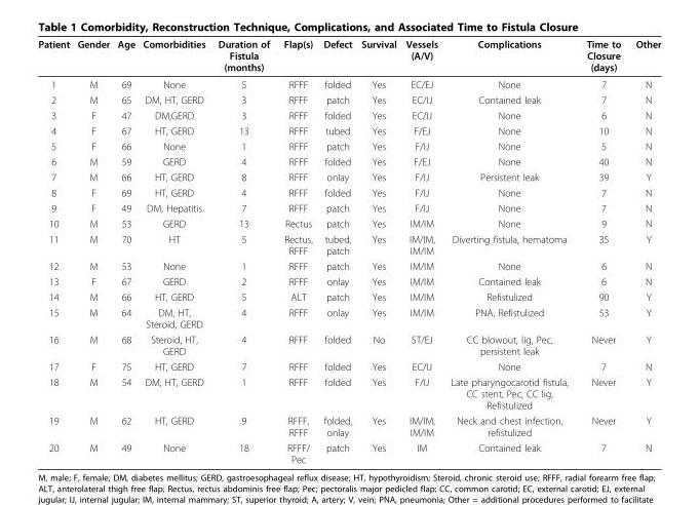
<table><thead><tr><td>Patient</td><td>Gender</td><td>Age</td><td>Comorbidities</td><td>Duration of Fistula (months)</td><td>Flap(s)</td><td>Defect</td><td>Survival</td><td>Vessels (A/V)</td><td>Complications</td><td>Time to Closure (days)</td><td>Other</td></tr></thead><tbody><tr><td>1</td><td>M</td><td>69</td><td>None</td><td>5</td><td>RFFF</td><td>folded</td><td>Yes</td><td>EC/EJ</td><td>None</td><td>7</td><td>N</td></tr><tr><td>2</td><td>M</td><td>65</td><td>DM, HT, GERD</td><td>3</td><td>RFFF</td><td>patch</td><td>Yes</td><td>EC/IJ</td><td>Contained leak</td><td>7</td><td>N</td></tr><tr><td>3</td><td>F</td><td>47</td><td>DM,GERD</td><td>3</td><td>RFFF</td><td>folded</td><td>Yes</td><td>EC/IJ</td><td>None</td><td>6</td><td>N</td></tr><tr><td>4</td><td>F</td><td>67</td><td>HT, GERD</td><td>13</td><td>RFFF</td><td>tubed</td><td>Yes</td><td>F/EJ</td><td>None</td><td>10</td><td>N</td></tr><tr><td>5</td><td>F</td><td>66</td><td>None</td><td>1</td><td>RFFF</td><td>patch</td><td>Yes</td><td>F/IJ</td><td>None</td><td>5</td><td>N</td></tr><tr><td>6</td><td>M</td><td>59</td><td>GERD</td><td>4</td><td>RFFF</td><td>folded</td><td>Yes</td><td>F/EJ</td><td>None</td><td>40</td><td>N</td></tr><tr><td>7</td><td>M</td><td>66</td><td>HT, GERD</td><td>8</td><td>RFFF</td><td>onlay</td><td>Yes</td><td>F/IJ</td><td>Persistent leak</td><td>39</td><td>Y</td></tr><tr><td>8</td><td>F</td><td>69</td><td>HT, GERD</td><td>4</td><td>RFFF</td><td>folded</td><td>Yes</td><td>F/IJ</td><td>None</td><td>7</td><td>N</td></tr><tr><td>9</td><td>F</td><td>49</td><td>DM, Hepatitis</td><td>7</td><td>RFFF</td><td>patch</td><td>Yes</td><td>F/IJ</td><td>None</td><td>7</td><td>N</td></tr><tr><td>10</td><td>M</td><td>53</td><td>GERD</td><td>13</td><td>Rectus</td><td>patch</td><td>Yes</td><td>IM/IM</td><td>None</td><td>9</td><td>N</td></tr><tr><td>11</td><td>M</td><td>70</td><td>HT</td><td>5</td><td>Rectus, RFFF</td><td>tubed, patch</td><td>Yes</td><td>IM/IM, IM/IM</td><td>Diverting fistula, hematoma</td><td>35</td><td>Y</td></tr><tr><td>12</td><td>M</td><td>53</td><td>None</td><td>1</td><td>RFFF</td><td>patch</td><td>Yes</td><td>IM/IM</td><td>None</td><td>6</td><td>N</td></tr><tr><td>13</td><td>F</td><td>67</td><td>GERD</td><td>2</td><td>RFFF</td><td>onlay</td><td>Yes</td><td>IM/IM</td><td>Contained leak</td><td>6</td><td>N</td></tr><tr><td>14</td><td>M</td><td>66</td><td>HT, GERD</td><td>5</td><td>ALT</td><td>patch</td><td>Yes</td><td>IM/IM</td><td>Refistulized</td><td>90</td><td>Y</td></tr><tr><td>15</td><td>M</td><td>64</td><td>DM, HT, Steroid, GERD</td><td>4</td><td>RFFF</td><td>onlay</td><td>Yes</td><td>IM/IM</td><td>PNA, Refistulized</td><td>53</td><td>Y</td></tr><tr><td>16</td><td>M</td><td>68</td><td>Steroid, HT, GERD</td><td>4</td><td>RFFF</td><td>folded</td><td>No</td><td>ST/EJ</td><td>CC blowout, lig, Pec, persistent leak</td><td>Never</td><td>Y</td></tr><tr><td>17</td><td>F</td><td>75</td><td>HT, GERD</td><td>7</td><td>RFFF</td><td>folded</td><td>Yes</td><td>EC/IJ</td><td>None</td><td>7</td><td>N</td></tr><tr><td>18</td><td>M</td><td>54</td><td>DM, HT, GERD</td><td>1</td><td>RFFF</td><td>folded</td><td>Yes</td><td>F/IJ</td><td>Late pharyngocarotid fistula, CC stent, Pec, CC lig, Refistulized</td><td>Never</td><td>Y</td></tr><tr><td>19</td><td>M</td><td>62</td><td>HT, GERD</td><td>9</td><td>RFFF, RFFF</td><td>folded, onlay</td><td>Yes</td><td>IM/IM, IM/IM</td><td>Neck and chest infection, refistulized</td><td>Never</td><td>Y</td></tr><tr><td>20</td><td>M</td><td>49</td><td>None</td><td>18</td><td>RFFF/ Pec</td><td>patch</td><td>Yes</td><td>IM</td><td>Contained leak</td><td>7</td><td>N</td></tr></tbody></table>